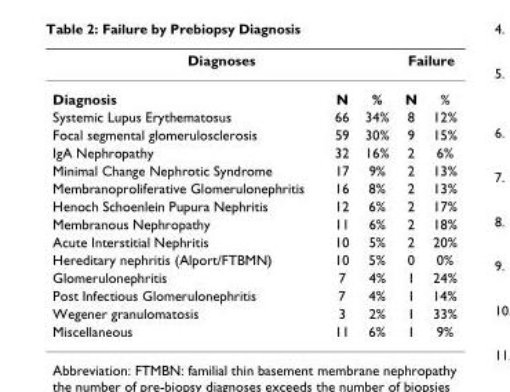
<table><thead><tr><td colspan="3">Diagnoses</td><td colspan="2">Failure</td></tr><tr><td>Diagnosis</td><td>N</td><td>%</td><td>N</td><td>%</td></tr></thead><tbody><tr><td>Systemic Lupus Erythematosus</td><td>66</td><td>34%</td><td>8</td><td>12%</td></tr><tr><td>Focal segmental glomerulosclerosis</td><td>59</td><td>30%</td><td>9</td><td>15%</td></tr><tr><td>IgA Nephropathy</td><td>32</td><td>16%</td><td>2</td><td>6%</td></tr><tr><td>Minimal Change Nephrotic Syndrome</td><td>17</td><td>9%</td><td>2</td><td>13%</td></tr><tr><td>Membranoproliferative Glomerulonephritis</td><td>16</td><td>8%</td><td>2</td><td>13%</td></tr><tr><td>Henoch Schoenlein Pupura Nephritis</td><td>12</td><td>6%</td><td>2</td><td>17%</td></tr><tr><td>Membranous Nephropathy</td><td>11</td><td>6%</td><td>2</td><td>18%</td></tr><tr><td>Acute Interstitial Nephritis</td><td>10</td><td>5%</td><td>2</td><td>20%</td></tr><tr><td>Hereditary nephritis (Alport/FTBMN)</td><td>10</td><td>5%</td><td>0</td><td>0%</td></tr><tr><td>Glomerulonephritis</td><td>7</td><td>4%</td><td>1</td><td>24%</td></tr><tr><td>Post Infectious Glomerulonephritis</td><td>7</td><td>4%</td><td>1</td><td>14%</td></tr><tr><td>Wegener granulomatosis</td><td>3</td><td>2%</td><td>1</td><td>33%</td></tr><tr><td>Miscellaneous</td><td>11</td><td>6%</td><td>1</td><td>9%</td></tr></tbody></table>